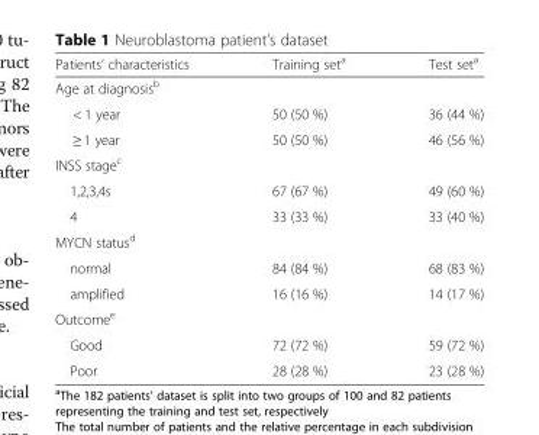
<table><thead><tr><td>Patients’ characteristics</td><td>Training set<sup>a</sup></td><td>Test set<sup>a</sup></td></tr></thead><tbody><tr><td colspan="3">Age at diagnosis<sup>b</sup></td></tr><tr><td>&lt; 1 year</td><td>50 (50 %)</td><td>36 (44 %)</td></tr><tr><td>≥ 1 year</td><td>50 (50 %)</td><td>46 (56 %)</td></tr><tr><td colspan="3">INSS stage<sup>c</sup></td></tr><tr><td>1,2,3,4s</td><td>67 (67 %)</td><td>49 (60 %)</td></tr><tr><td>4</td><td>33 (33 %)</td><td>33 (40 %)</td></tr><tr><td colspan="3">MYCN status<sup>d</sup></td></tr><tr><td>normal</td><td>84 (84 %)</td><td>68 (83 %)</td></tr><tr><td>amplified</td><td>16 (16 %)</td><td>14 (17 %)</td></tr><tr><td colspan="3">Outcome<sup>e</sup></td></tr><tr><td>Good</td><td>72 (72 %)</td><td>59 (72 %)</td></tr><tr><td>Poor</td><td>28 (28 %)</td><td>23 (28 %)</td></tr></tbody></table>